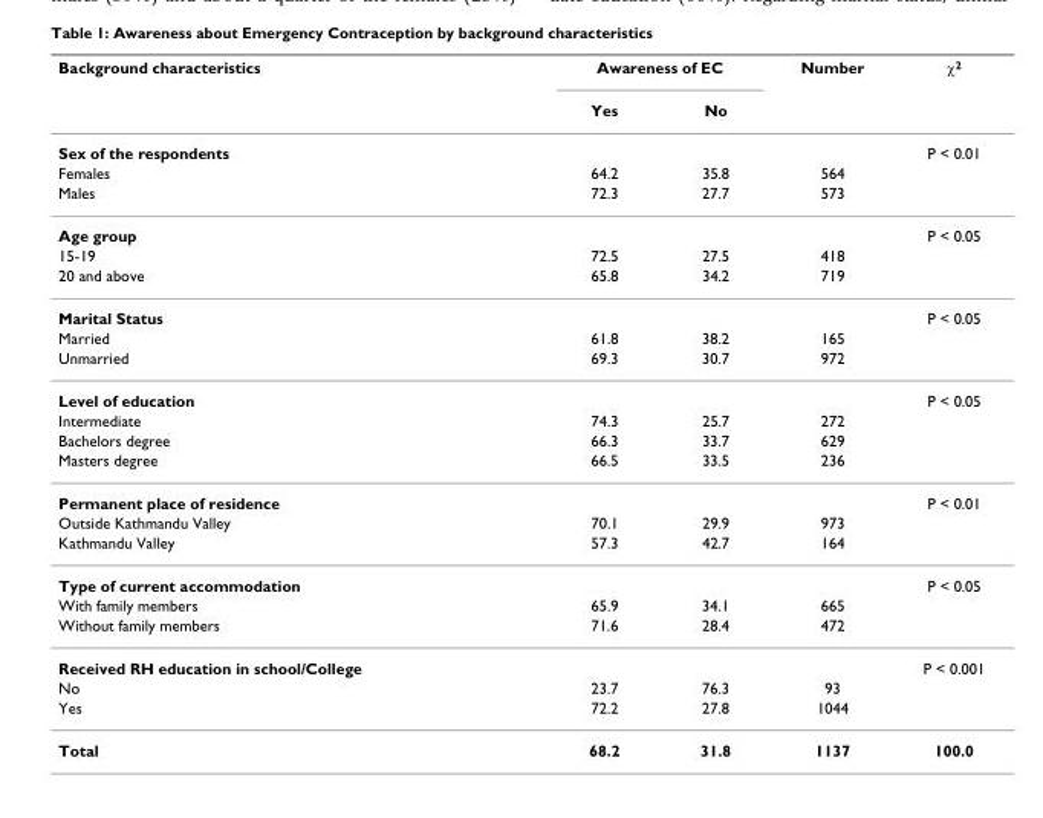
<table><thead><tr><td rowspan="2">Background characteristics</td><td colspan="2">Awareness of EC</td><td rowspan="2">Number</td><td rowspan="2">χ2</td></tr><tr><td>Yes</td><td>No</td></tr></thead><tbody><tr><td>Sex of the respondents</td><td></td><td></td><td></td><td>P &lt; 0.01</td></tr><tr><td>Females</td><td>64.2</td><td>35.8</td><td>564</td><td></td></tr><tr><td>Males</td><td>72.3</td><td>27.7</td><td>573</td><td></td></tr><tr><td>Age group</td><td></td><td></td><td></td><td>P &lt; 0.05</td></tr><tr><td>15-19</td><td>72.5</td><td>27.5</td><td>418</td><td></td></tr><tr><td>20 and above</td><td>65.8</td><td>34.2</td><td>719</td><td></td></tr><tr><td>Marital Status</td><td></td><td></td><td></td><td>P &lt; 0.05</td></tr><tr><td>Married</td><td>61.8</td><td>38.2</td><td>165</td><td></td></tr><tr><td>Unmarried</td><td>69.3</td><td>30.7</td><td>972</td><td></td></tr><tr><td>Level of education</td><td></td><td></td><td></td><td>P &lt; 0.05</td></tr><tr><td>Intermediate</td><td>74.3</td><td>25.7</td><td>272</td><td></td></tr><tr><td>Bachelors degree</td><td>66.3</td><td>33.7</td><td>629</td><td></td></tr><tr><td>Masters degree</td><td>66.5</td><td>33.5</td><td>236</td><td></td></tr><tr><td>Permanent place of residence</td><td></td><td></td><td></td><td>P &lt; 0.01</td></tr><tr><td>Outside Kathmandu Valley</td><td>70.1</td><td>29.9</td><td>973</td><td></td></tr><tr><td>Kathmandu Valley</td><td>57.3</td><td>42.7</td><td>164</td><td></td></tr><tr><td>Type of current accommodation</td><td></td><td></td><td></td><td>P &lt; 0.05</td></tr><tr><td>With family members</td><td>65.9</td><td>34.1</td><td>665</td><td></td></tr><tr><td>Without family members</td><td>71.6</td><td>28.4</td><td>472</td><td></td></tr><tr><td>Received RH education in school/College</td><td></td><td></td><td></td><td>P &lt; 0.001</td></tr><tr><td>No</td><td>23.7</td><td>76.3</td><td>93</td><td></td></tr><tr><td>Yes</td><td>72.2</td><td>27.8</td><td>1044</td><td></td></tr><tr><td>Total</td><td>68.2</td><td>31.8</td><td>1137</td><td>100.0</td></tr></tbody></table>